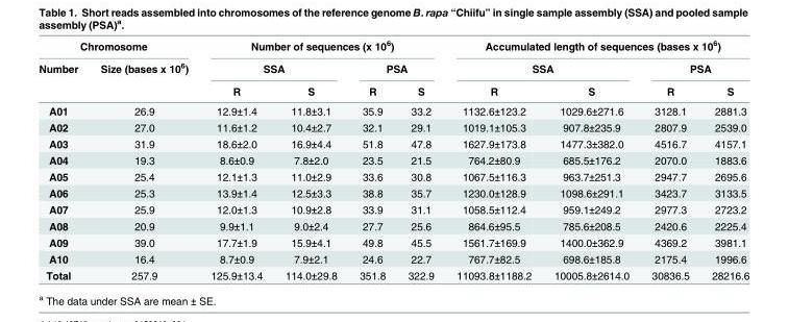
<table><thead><tr><td colspan="2">Chromosome</td><td colspan="4">Number of sequences (x 10<sup>6</sup>)</td><td colspan="4">Accumulated length of sequences (bases x 10<sup>6</sup>)</td></tr><tr><td rowspan="2">Number</td><td rowspan="2">Size (bases x 10<sup>6</sup>)</td><td colspan="2">SSA</td><td colspan="2">PSA</td><td colspan="2">SSA</td><td colspan="2">PSA</td></tr><tr><td>R</td><td>S</td><td>R</td><td>S</td><td>R</td><td>S</td><td>R</td><td>S</td></tr></thead><tbody><tr><td>A01</td><td>26.9</td><td>12.9±1.4</td><td>11.8±3.1</td><td>35.9</td><td>33.2</td><td>1132.6±123.2</td><td>1029.6±271.6</td><td>3128.1</td><td>2881.3</td></tr><tr><td>A02</td><td>27.0</td><td>11.6±1.2</td><td>10.4±2.7</td><td>32.1</td><td>29.1</td><td>1019.1±105.3</td><td>907.8±235.9</td><td>2807.9</td><td>2539.0</td></tr><tr><td>A03</td><td>31.9</td><td>18.6±2.0</td><td>16.9±4.4</td><td>51.8</td><td>47.8</td><td>1627.9±173.8</td><td>1477.3±382.0</td><td>4516.7</td><td>4157.1</td></tr><tr><td>A04</td><td>19.3</td><td>8.6±0.9</td><td>7.8±2.0</td><td>23.5</td><td>21.5</td><td>764.2±80.9</td><td>685.5±176.2</td><td>2070.0</td><td>1883.6</td></tr><tr><td>A05</td><td>25.4</td><td>12.1±1.3</td><td>11.0±2.9</td><td>33.6</td><td>30.8</td><td>1067.5±116.3</td><td>963.7±251.3</td><td>2947.7</td><td>2695.6</td></tr><tr><td>A06</td><td>25.3</td><td>13.9±1.4</td><td>12.5±3.3</td><td>38.8</td><td>35.7</td><td>1230.0±128.9</td><td>1098.6±291.1</td><td>3423.7</td><td>3133.5</td></tr><tr><td>A07</td><td>25.9</td><td>12.0±1.3</td><td>10.9±2.8</td><td>33.9</td><td>31.1</td><td>1058.5±112.4</td><td>959.1±249.2</td><td>2977.3</td><td>2723.2</td></tr><tr><td>A08</td><td>20.9</td><td>9.9±1.1</td><td>9.0±2.4</td><td>27.7</td><td>25.6</td><td>864.6±95.5</td><td>785.6±208.5</td><td>2420.6</td><td>2225.4</td></tr><tr><td>A09</td><td>39.0</td><td>17.7±1.9</td><td>15.9±4.1</td><td>49.8</td><td>45.5</td><td>1561.7±169.9</td><td>1400.0±362.9</td><td>4369.2</td><td>3981.1</td></tr><tr><td>A10</td><td>16.4</td><td>8.7±0.9</td><td>7.9±2.1</td><td>24.6</td><td>22.7</td><td>767.7±82.5</td><td>698.6±185.8</td><td>2175.4</td><td>1996.6</td></tr><tr><td>Total</td><td>257.9</td><td>125.9±13.4</td><td>114.0±29.8</td><td>351.8</td><td>322.9</td><td>11093.8±1188.2</td><td>10005.8±2614.0</td><td>30836.5</td><td>28216.6</td></tr></tbody></table>